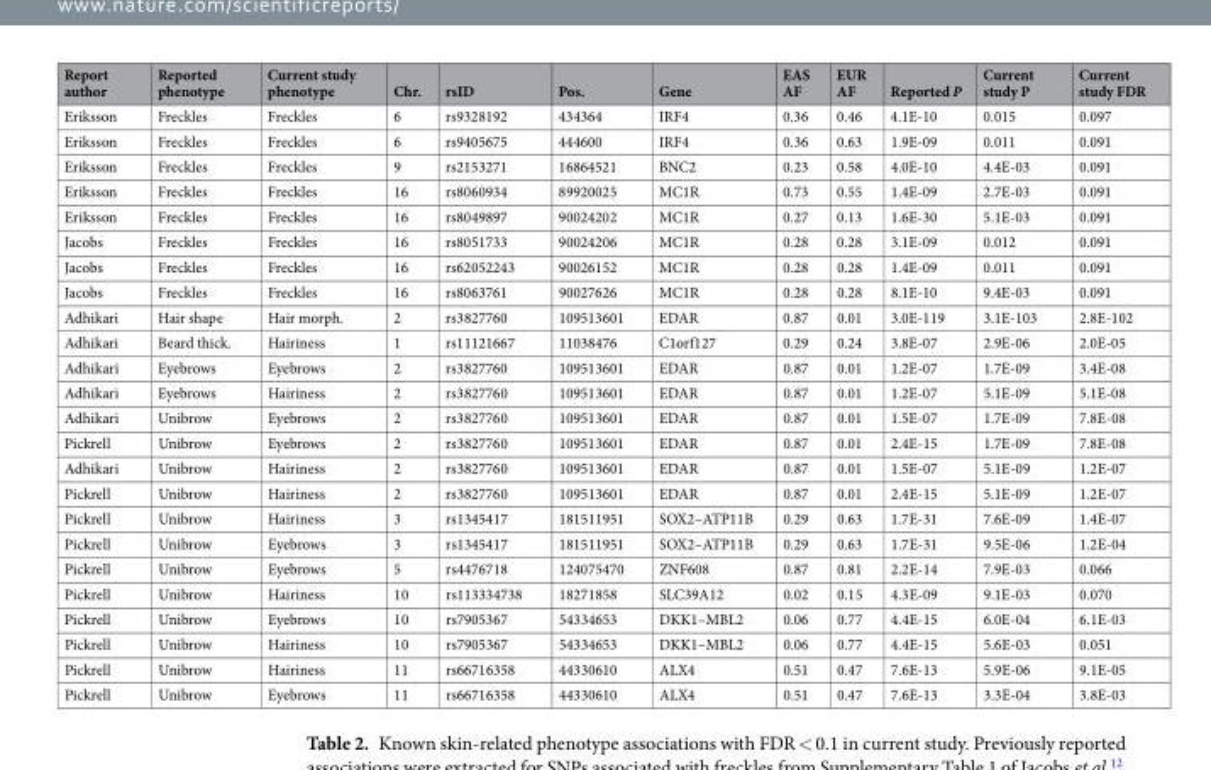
<table><thead><tr><td>Report author</td><td>Reported phenotype</td><td>Current study phenotype</td><td>Chr.</td><td>rsID</td><td>Pos.</td><td>Gene</td><td>EAS AF</td><td>EUR AF</td><td>Reported P</td><td>Current study P</td><td>Current study FDR</td></tr></thead><tbody><tr><td>Eriksson</td><td>Freckles</td><td>Freckles</td><td>6</td><td>rs9328192</td><td>434364</td><td>IRF4</td><td>0.36</td><td>0.46</td><td>4.1E-10</td><td>0.015</td><td>0.097</td></tr><tr><td>Eriksson</td><td>Freckles</td><td>Freckles</td><td>6</td><td>rs9405675</td><td>444600</td><td>IRF4</td><td>0.36</td><td>0.63</td><td>1.9E-09</td><td>0.011</td><td>0.091</td></tr><tr><td>Eriksson</td><td>Freckles</td><td>Freckles</td><td>9</td><td>rs2153271</td><td>16864521</td><td>BNC2</td><td>0.23</td><td>0.58</td><td>4.0E-10</td><td>4.4E-03</td><td>0.091</td></tr><tr><td>Eriksson</td><td>Freckles</td><td>Freckles</td><td>16</td><td>rs8060934</td><td>89920025</td><td>MC1R</td><td>0.73</td><td>0.55</td><td>1.4E-09</td><td>2.7E-03</td><td>0.091</td></tr><tr><td>Eriksson</td><td>Freckles</td><td>Freckles</td><td>16</td><td>rs8049897</td><td>90024202</td><td>MC1R</td><td>0.27</td><td>0.13</td><td>1.6E-30</td><td>5.1E-03</td><td>0.091</td></tr><tr><td>Jacobs</td><td>Freckles</td><td>Freckles</td><td>16</td><td>rs8051733</td><td>90024206</td><td>MC1R</td><td>0.28</td><td>0.28</td><td>3.1E-09</td><td>0.012</td><td>0.091</td></tr><tr><td>Jacobs</td><td>Freckles</td><td>Freckles</td><td>16</td><td>rs62052243</td><td>90026152</td><td>MC1R</td><td>0.28</td><td>0.28</td><td>1.4E-09</td><td>0.011</td><td>0.091</td></tr><tr><td>Jacobs</td><td>Freckles</td><td>Freckles</td><td>16</td><td>rs8063761</td><td>90027626</td><td>MC1R</td><td>0.28</td><td>0.28</td><td>8.1E-10</td><td>9.4E-03</td><td>0.091</td></tr><tr><td>Adhikari</td><td>Hair shape</td><td>Hair morph.</td><td>2</td><td>rs3827760</td><td>109513601</td><td>EDAR</td><td>0.87</td><td>0.01</td><td>3.0E-119</td><td>3.1E-103</td><td>2.8E-102</td></tr><tr><td>Adhikari</td><td>Beard thick.</td><td>Hairiness</td><td>1</td><td>rs11121667</td><td>11038476</td><td>C1orf127</td><td>0.29</td><td>0.24</td><td>3.8E-07</td><td>2.9E-06</td><td>2.0E-05</td></tr><tr><td>Adhikari</td><td>Eyebrows</td><td>Eyebrows</td><td>2</td><td>rs3827760</td><td>109513601</td><td>EDAR</td><td>0.87</td><td>0.01</td><td>1.2E-07</td><td>1.7E-09</td><td>3.4E-08</td></tr><tr><td>Adhikari</td><td>Eyebrows</td><td>Hairiness</td><td>2</td><td>rs3827760</td><td>109513601</td><td>EDAR</td><td>0.87</td><td>0.01</td><td>1.2E-07</td><td>5.1E-09</td><td>5.1E-08</td></tr><tr><td>Adhikari</td><td>Unibrow</td><td>Eyebrows</td><td>2</td><td>rs3827760</td><td>109513601</td><td>EDAR</td><td>0.87</td><td>0.01</td><td>1.5E-07</td><td>1.7E-09</td><td>7.8E-08</td></tr><tr><td>Pickrell</td><td>Unibrow</td><td>Eyebrows</td><td>2</td><td>rs3827760</td><td>109513601</td><td>EDAR</td><td>0.87</td><td>0.01</td><td>2.4E-15</td><td>1.7E-09</td><td>7.8E-08</td></tr><tr><td>Adhikari</td><td>Unibrow</td><td>Hairiness</td><td>2</td><td>rs3827760</td><td>109513601</td><td>EDAR</td><td>0.87</td><td>0.01</td><td>1.5E-07</td><td>5.1E-09</td><td>1.2E-07</td></tr><tr><td>Pickrell</td><td>Unibrow</td><td>Hairiness</td><td>2</td><td>rs3827760</td><td>109513601</td><td>EDAR</td><td>0.87</td><td>0.01</td><td>2.4E-15</td><td>5.1E-09</td><td>1.2E-07</td></tr><tr><td>Pickrell</td><td>Unibrow</td><td>Hairiness</td><td>3</td><td>rs1345417</td><td>181511951</td><td>SOX2–ATP11B</td><td>0.29</td><td>0.63</td><td>1.7E-31</td><td>7.6E-09</td><td>1.4E-07</td></tr><tr><td>Pickrell</td><td>Unibrow</td><td>Eyebrows</td><td>3</td><td>rs1345417</td><td>181511951</td><td>SOX2–ATP11B</td><td>0.29</td><td>0.63</td><td>1.7E-31</td><td>9.5E-06</td><td>1.2E-04</td></tr><tr><td>Pickrell</td><td>Unibrow</td><td>Eyebrows</td><td>5</td><td>rs4476718</td><td>124075470</td><td>ZNF608</td><td>0.87</td><td>0.81</td><td>2.2E-14</td><td>7.9E-03</td><td>0.066</td></tr><tr><td>Pickrell</td><td>Unibrow</td><td>Hairiness</td><td>10</td><td>rs113334738</td><td>18271858</td><td>SLC39A12</td><td>0.02</td><td>0.15</td><td>4.3E-09</td><td>9.1E-03</td><td>0.070</td></tr><tr><td>Pickrell</td><td>Unibrow</td><td>Eyebrows</td><td>10</td><td>rs7905367</td><td>54334653</td><td>DKK1–MBL2</td><td>0.06</td><td>0.77</td><td>4.4E-15</td><td>6.0E-04</td><td>6.1E-03</td></tr><tr><td>Pickrell</td><td>Unibrow</td><td>Hairiness</td><td>10</td><td>rs7905367</td><td>54334653</td><td>DKK1–MBL2</td><td>0.06</td><td>0.77</td><td>4.4E-15</td><td>5.6E-03</td><td>0.051</td></tr><tr><td>Pickrell</td><td>Unibrow</td><td>Hairiness</td><td>11</td><td>rs66716358</td><td>44330610</td><td>ALX4</td><td>0.51</td><td>0.47</td><td>7.6E-13</td><td>5.9E-06</td><td>9.1E-05</td></tr><tr><td>Pickrell</td><td>Unibrow</td><td>Eyebrows</td><td>11</td><td>rs66716358</td><td>44330610</td><td>ALX4</td><td>0.51</td><td>0.47</td><td>7.6E-13</td><td>3.3E-04</td><td>3.8E-03</td></tr></tbody></table>